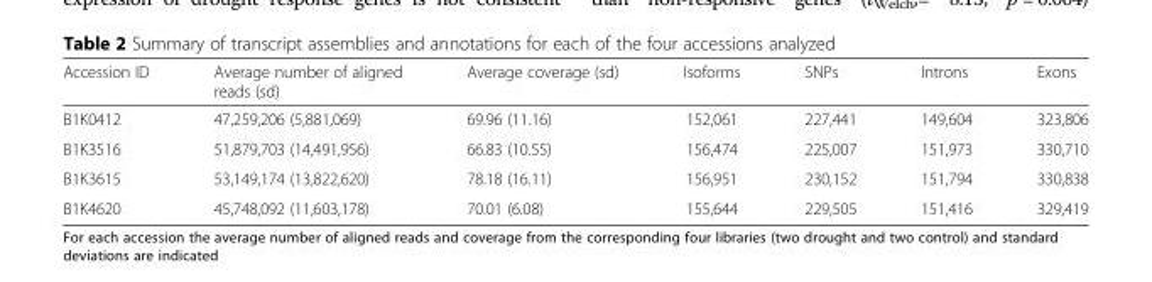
<table><thead><tr><td>Accession ID</td><td>Average number of aligned reads (sd)</td><td>Average coverage (sd)</td><td>Isoforms</td><td>SNPs</td><td>Introns</td><td>Exons</td></tr></thead><tbody><tr><td>B1K0412</td><td>47,259,206 (5,881,069)</td><td>69.96 (11.16)</td><td>152,061</td><td>227,441</td><td>149,604</td><td>323,806</td></tr><tr><td>B1K3516</td><td>51,879,703 (14,491,956)</td><td>66.83 (10.55)</td><td>156,474</td><td>225,007</td><td>151,973</td><td>330,710</td></tr><tr><td>B1K3615</td><td>53,149,174 (13,822,620)</td><td>78.18 (16.11)</td><td>156,951</td><td>230,152</td><td>151,794</td><td>330,838</td></tr><tr><td>B1K4620</td><td>45,748,092 (11,603,178)</td><td>70.01 (6.08)</td><td>155,644</td><td>229,505</td><td>151,416</td><td>329,419</td></tr></tbody></table>